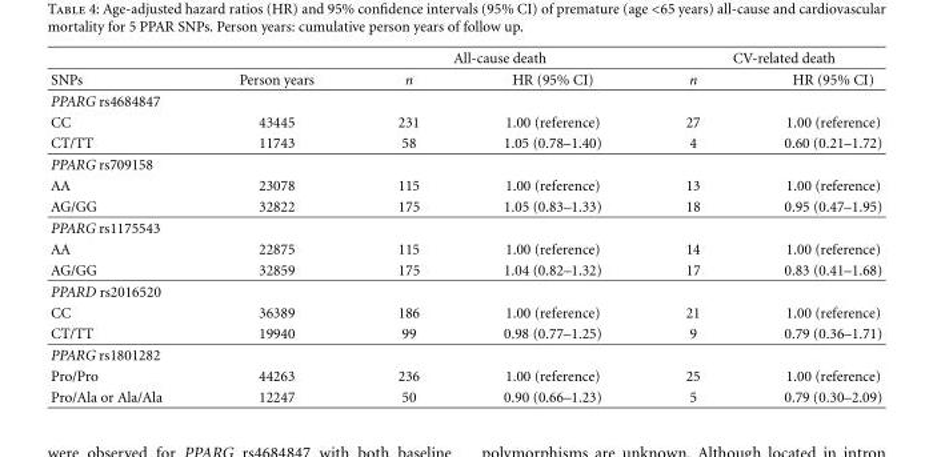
<table><thead><tr><td rowspan="2">SNPs</td><td rowspan="2">Person years</td><td colspan="2">All-cause death</td><td colspan="2">CV-related death</td></tr><tr><td>n</td><td>HR (95% CI)</td><td>n</td><td>HR (95% CI)</td></tr></thead><tbody><tr><td colspan="6">PPARG rs4684847</td></tr><tr><td>CC</td><td>43445</td><td>231</td><td>1.00 (reference)</td><td>27</td><td>1.00 (reference)</td></tr><tr><td>CT/TT</td><td>11743</td><td>58</td><td>1.05 (0.78–1.40)</td><td>4</td><td>0.60 (0.21–1.72)</td></tr><tr><td colspan="6">PPARG rs709158</td></tr><tr><td>AA</td><td>23078</td><td>115</td><td>1.00 (reference)</td><td>13</td><td>1.00 (reference)</td></tr><tr><td>AG/GG</td><td>32822</td><td>175</td><td>1.05 (0.83–1.33)</td><td>18</td><td>0.95 (0.47–1.95)</td></tr><tr><td colspan="6">PPARG rs1175543</td></tr><tr><td>AA</td><td>22875</td><td>115</td><td>1.00 (reference)</td><td>14</td><td>1.00 (reference)</td></tr><tr><td>AG/GG</td><td>32859</td><td>175</td><td>1.04 (0.82–1.32)</td><td>17</td><td>0.83 (0.41–1.68)</td></tr><tr><td colspan="6">PPARD rs2016520</td></tr><tr><td>CC</td><td>36389</td><td>186</td><td>1.00 (reference)</td><td>21</td><td>1.00 (reference)</td></tr><tr><td>CT/TT</td><td>19940</td><td>99</td><td>0.98 (0.77–1.25)</td><td>9</td><td>0.79 (0.36–1.71)</td></tr><tr><td colspan="6">PPARG rs1801282</td></tr><tr><td>Pro/Pro</td><td>44263</td><td>236</td><td>1.00 (reference)</td><td>25</td><td>1.00 (reference)</td></tr><tr><td>Pro/Ala or Ala/Ala</td><td>12247</td><td>50</td><td>0.90 (0.66–1.23)</td><td>5</td><td>0.79 (0.30–2.09)</td></tr></tbody></table>